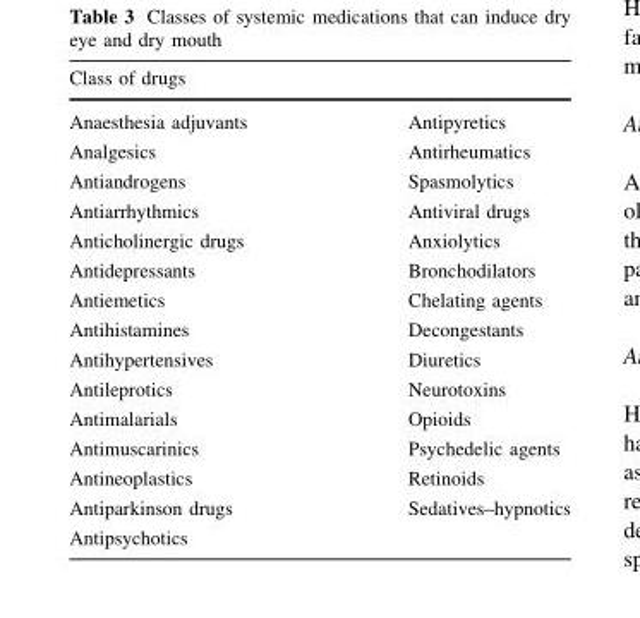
<table><thead><tr><td colspan="2">Class of drugs</td></tr><tr><td>Anaesthesia adjuvants</td><td>Antipyretics</td></tr></thead><tbody><tr><td>Analgesics</td><td>Antirheumatics</td></tr><tr><td>Antiandrogens</td><td>Spasmolytics</td></tr><tr><td>Antiarrhythmics</td><td>Antiviral drugs</td></tr><tr><td>Anticholinergic drugs</td><td>Anxiolytics</td></tr><tr><td>Antidepressants</td><td>Bronchodilators</td></tr><tr><td>Antiemetics</td><td>Chelating agents</td></tr><tr><td>Antihistamines</td><td>Decongestants</td></tr><tr><td>Antihypertensives</td><td>Diuretics</td></tr><tr><td>Antileprotics</td><td>Neurotoxins</td></tr><tr><td>Antimalarials</td><td>Opioids</td></tr><tr><td>Antimuscarinics</td><td>Psychedelic agents</td></tr><tr><td>Antineoplastics</td><td>Retinoids</td></tr><tr><td>Antiparkinson drugs</td><td>Sedatives–hypnotics</td></tr><tr><td>Antipsychotics</td><td></td></tr></tbody></table>